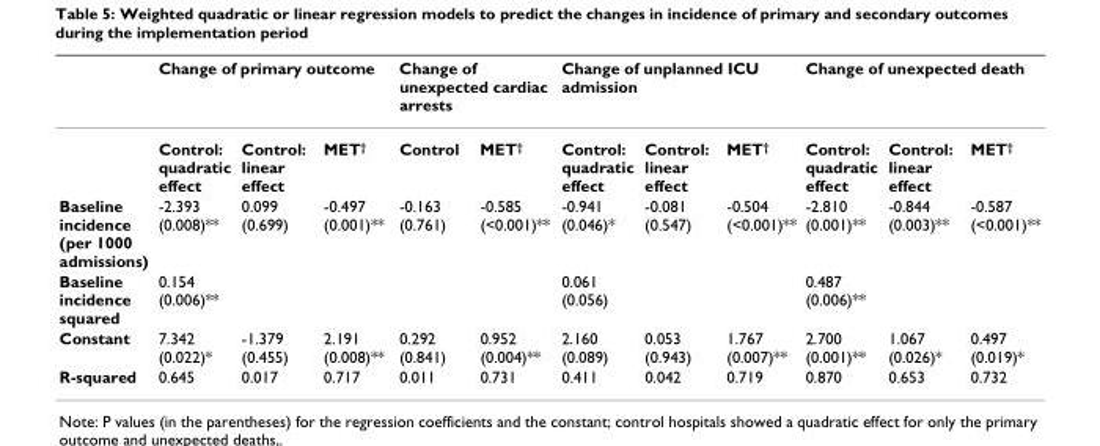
<table><thead><tr><td rowspan="2"></td><td colspan="3">Change of primary outcome</td><td colspan="2">Change of unexpected cardiac arrests</td><td colspan="3">Change of unplanned ICU admission</td><td colspan="3">Change of unexpected death</td></tr><tr><td>Control: quadratic effect</td><td>Control: linear effect</td><td>MET<sup>†</sup></td><td>Control</td><td>MET<sup>†</sup></td><td>Control: quadratic effect</td><td>Control: linear effect</td><td>MET<sup>†</sup></td><td>Control: quadratic effect</td><td>Control: linear effect</td><td>MET<sup>†</sup></td></tr></thead><tbody><tr><td>Baseline incidence (per 1000 admissions)</td><td>-2.393 (0.008)**</td><td>0.099 (0.699)</td><td>-0.497 (0.001)**</td><td>-0.163 (0.761)</td><td>-0.585 (&lt;0.001)**</td><td>-0.941 (0.046)*</td><td>-0.081 (0.547)</td><td>-0.504 (&lt;0.001)**</td><td>-2.810 (0.001)**</td><td>-0.844 (0.003)**</td><td>-0.587 (&lt;0.001)**</td></tr><tr><td>Baseline incidence squared</td><td>0.154 (0.006)**</td><td></td><td></td><td></td><td></td><td>0.061 (0.056)</td><td></td><td></td><td>0.487 (0.006)**</td><td></td><td></td></tr><tr><td>Constant</td><td>7.342 (0.022)*</td><td>-1.379 (0.455)</td><td>2.191 (0.008)**</td><td>0.292 (0.841)</td><td>0.952 (0.004)**</td><td>2.160 (0.089)</td><td>0.053 (0.943)</td><td>1.767 (0.007)**</td><td>2.700 (0.001)**</td><td>1.067 (0.026)*</td><td>0.497 (0.019)*</td></tr><tr><td>R-squared</td><td>0.645</td><td>0.017</td><td>0.717</td><td>0.011</td><td>0.731</td><td>0.411</td><td>0.042</td><td>0.719</td><td>0.870</td><td>0.653</td><td>0.732</td></tr></tbody></table>